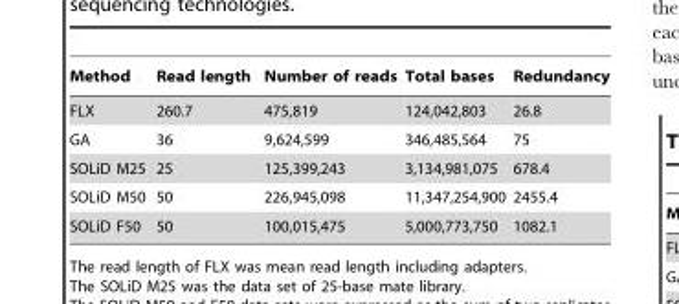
<table><thead><tr><td>Method</td><td>Read length</td><td>Number of reads</td><td>Total bases</td><td>Redundancy</td></tr></thead><tbody><tr><td>FLX</td><td>260.7</td><td>475,819</td><td>124,042,803</td><td>26.8</td></tr><tr><td>GA</td><td>36</td><td>9,624,599</td><td>346,485,564</td><td>75</td></tr><tr><td>SOLiD M25</td><td>25</td><td>125,399,243</td><td>3,134,981,075</td><td>678.4</td></tr><tr><td>SOLiD M50</td><td>50</td><td>226,945,098</td><td>11,347,254,900</td><td>2455.4</td></tr><tr><td>SOLiD F50</td><td>50</td><td>100,015,475</td><td>5,000,773,750</td><td>1082.1</td></tr></tbody></table>